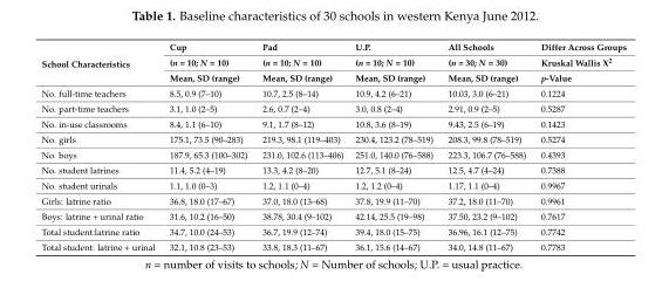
<table><thead><tr><td rowspan="3">School Characteristics</td><td rowspan="3">Cup (n = 10; N = 10) Mean, SD (range)</td><td rowspan="3">Pad (n = 10; N = 10) Mean, SD (range)</td><td rowspan="3">U.P. (n = 10; N = 10) Mean, SD (range)</td><td rowspan="3">All Schools (n = 30; N = 30) Mean, SD (range)</td><td rowspan="3">Differ Across Groups Kruskal Wallis X<sup>2</sup> p-Value</td></tr><tr></tr><tr></tr></thead><tbody><tr><td>No. full-time teachers</td><td>8.5, 0.9 (7–10)</td><td>10.7, 2.5 (8–14)</td><td>10.9, 4.2 (6–21)</td><td>10.03, 3.0 (6–21)</td><td>0.1224</td></tr><tr><td>No. part-time teachers</td><td>3.1, 1.0 (2–5)</td><td>2.6, 0.7 (2–4)</td><td>3.0, 0.8 (2–4)</td><td>2.91, 0.9 (2–5)</td><td>0.5287</td></tr><tr><td>No. in-use classrooms</td><td>8.4, 1.1 (6–10)</td><td>9.1, 1.7 (8–12)</td><td>10.8, 3.6 (8–19)</td><td>9.43, 2.5 (6–19)</td><td>0.1423</td></tr><tr><td>No. girls</td><td>175.1, 73.5 (90–283)</td><td>219.3, 98.1 (119–403)</td><td>230.4, 123.2 (78–519)</td><td>208.3, 99.8 (78–519)</td><td>0.5274</td></tr><tr><td>No. boys</td><td>187.9, 65.3 (100–302)</td><td>231.0, 102.6 (113–406)</td><td>251.0, 140.0 (76–588)</td><td>223.3, 106.7 (76–588)</td><td>0.4393</td></tr><tr><td>No. student latrines</td><td>11.4, 5.2 (4–19)</td><td>13.3, 4.2 (8–20)</td><td>12.7, 5.1 (8–24)</td><td>12.5, 4.7 (4–24)</td><td>0.7388</td></tr><tr><td>No. student urinals</td><td>1.1, 1.0 (0–3)</td><td>1.2, 1.1 (0–4)</td><td>1.2, 1.2 (0–4)</td><td>1.17, 1.1 (0–4)</td><td>0.9967</td></tr><tr><td>Girls: latrine ratio</td><td>36.8, 18.0 (17–67)</td><td>37.0, 18.0 (13–68)</td><td>37.8, 19.9 (11–70)</td><td>37.2, 18.0 (11–70)</td><td>0.9961</td></tr><tr><td>Boys: latrine + urinal ratio</td><td>31.6, 10.2 (16–50)</td><td>38.78, 30.4 (9–102)</td><td>42.14, 25.5 (19–98)</td><td>37.50, 23.2 (9–102)</td><td>0.7617</td></tr><tr><td>Total student:latrine ratio</td><td>34.7, 10.0 (24–53)</td><td>36.7, 19.9 (12–74)</td><td>39.4, 18.0 (15–75)</td><td>36.96, 16.1 (12–75)</td><td>0.7742</td></tr><tr><td>Total student: latrine + urinal</td><td>32.1, 10.8 (23–53)</td><td>33.8, 18.3 (11–67)</td><td>36.1, 15.6 (14–67)</td><td>34.0, 14.8 (11–67)</td><td>0.7783</td></tr></tbody></table>